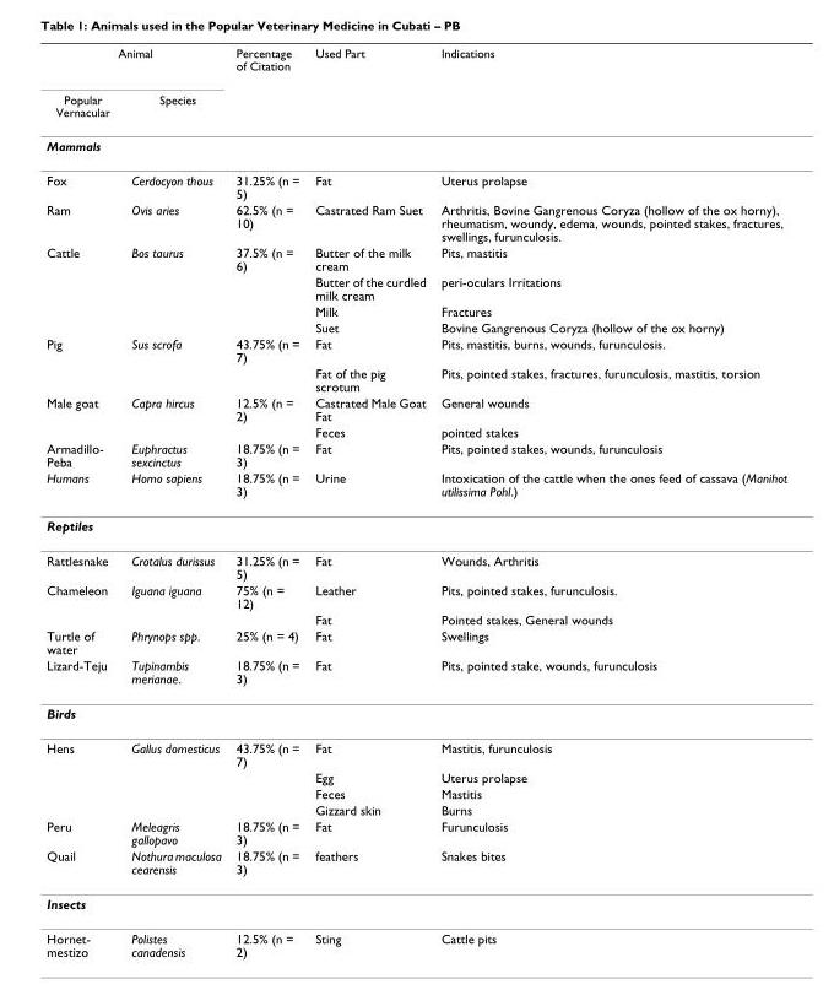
<table><thead><tr><td colspan="2">Animal</td><td rowspan="2">Percentage of Citation</td><td rowspan="2">Used Part</td><td rowspan="2">Indications</td></tr><tr><td>Popular Vernacular</td><td>Species</td></tr></thead><tbody><tr><td colspan="5">Mammals</td></tr><tr><td>Fox</td><td>Cerdocyon thous</td><td>31.25% (n = 5)</td><td>Fat</td><td>Uterus prolapse</td></tr><tr><td>Ram</td><td>Ovis aries</td><td>62.5% (n = 10)</td><td>Castrated Ram Suet</td><td>Arthritis, Bovine Gangrenous Coryza (hollow of the ox horny), rheumatism, woundy, edema, wounds, pointed stakes, fractures, swellings, furunculosis.</td></tr><tr><td rowspan="4">Cattle</td><td>Bos taurus</td><td>37.5% (n = 6)</td><td>Butter of the milk cream</td><td>Pits, mastitis</td></tr><tr><td></td><td></td><td>Butter of the curdled milk cream</td><td>peri-oculars Irritations</td></tr><tr><td></td><td></td><td>Milk</td><td>Fractures</td></tr><tr><td></td><td></td><td>Suet</td><td>Bovine Gangrenous Coryza (hollow of the ox horny)</td></tr><tr><td rowspan="2">Pig</td><td>Sus scrofa</td><td>43.75% (n = 7)</td><td>Fat</td><td>Pits, mastitis, burns, wounds, furunculosis.</td></tr><tr><td></td><td></td><td>Fat of the pig scrotum</td><td>Pits, pointed stakes, fractures, furunculosis, mastitis, torsion</td></tr><tr><td rowspan="2">Male goat</td><td>Capra hircus</td><td>12.5% (n = 2)</td><td>Castrated Male Goat Fat</td><td>General wounds</td></tr><tr><td></td><td></td><td>Feces</td><td>pointed stakes</td></tr><tr><td>Armadillo- Peba</td><td>Euphractus sexcinctus</td><td>18.75% (n = 3)</td><td>Fat</td><td>Pits, pointed stakes, wounds, furunculosis</td></tr><tr><td>Humans</td><td>Homo sapiens</td><td>18.75% (n = 3)</td><td>Urine</td><td>Intoxication of the cattle when the ones feed of cassava (Manihot utilissima Pohl.)</td></tr><tr><td colspan="5">Reptiles</td></tr><tr><td>Rattlesnake</td><td>Crotalus durissus</td><td>31.25% (n = 5)</td><td>Fat</td><td>Wounds, Arthritis</td></tr><tr><td rowspan="2">Chameleon</td><td>Iguana iguana</td><td>75% (n = 12)</td><td>Leather</td><td>Pits, pointed stakes, furunculosis.</td></tr><tr><td></td><td></td><td>Fat</td><td>Pointed stakes, General wounds</td></tr><tr><td>Turtle of water</td><td>Phrynops spp.</td><td>25% (n = 4)</td><td>Fat</td><td>Swellings</td></tr><tr><td>Lizard-Teju</td><td>Tupinambis merianae.</td><td>18.75% (n = 3)</td><td>Fat</td><td>Pits, pointed stake, wounds, furunculosis</td></tr><tr><td colspan="5">Birds</td></tr><tr><td rowspan="4">Hens</td><td>Gallus domesticus</td><td>43.75% (n = 7)</td><td>Fat</td><td>Mastitis, furunculosis</td></tr><tr><td></td><td></td><td>Egg</td><td>Uterus prolapse</td></tr><tr><td></td><td></td><td>Feces</td><td>Mastitis</td></tr><tr><td></td><td></td><td>Gizzard skin</td><td>Burns</td></tr><tr><td>Peru</td><td>Meleagris gallopavo</td><td>18.75% (n = 3)</td><td>Fat</td><td>Furunculosis</td></tr><tr><td>Quail</td><td>Nothura maculosa cearensis</td><td>18.75% (n = 3)</td><td>feathers</td><td>Snakes bites</td></tr><tr><td colspan="5">Insects</td></tr><tr><td>Hornet- mestizo</td><td>Polistes canadensis</td><td>12.5% (n = 2)</td><td>Sting</td><td>Cattle pits</td></tr></tbody></table>